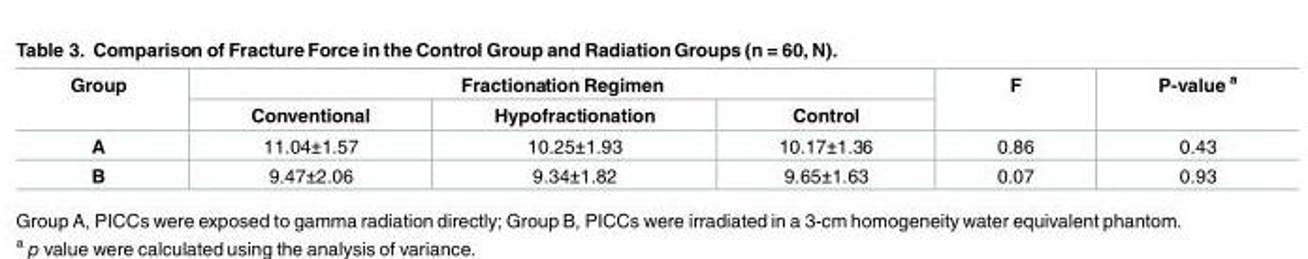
<table><thead><tr><td rowspan="2">Group</td><td colspan="3">Fractionation Regimen</td><td rowspan="2">F</td><td rowspan="2">P-value <sup>a</sup></td></tr><tr><td>Conventional</td><td>Hypofractionation</td><td>Control</td></tr></thead><tbody><tr><td>A</td><td>11.04±1.57</td><td>10.25±1.93</td><td>10.17±1.36</td><td>0.86</td><td>0.43</td></tr><tr><td>B</td><td>9.47±2.06</td><td>9.34±1.82</td><td>9.65±1.63</td><td>0.07</td><td>0.93</td></tr></tbody></table>